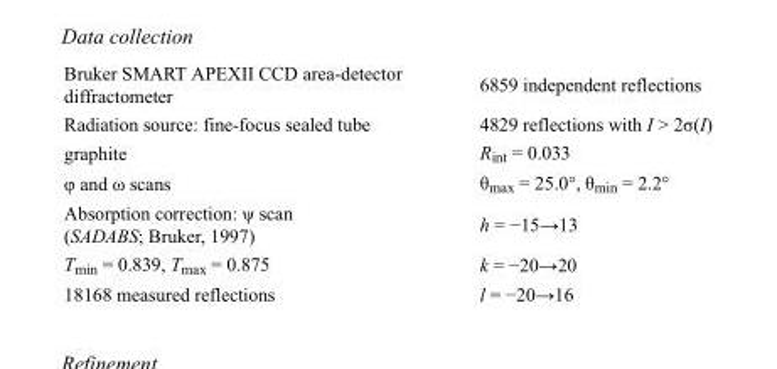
<table><tbody><tr><td>Bruker SMART APEXII CCD area-detector diffractometer</td><td>6859 independent reflections</td></tr><tr><td>Radiation source: fine-focus sealed tube</td><td>4829 reflections with I &gt; 2σ(I)</td></tr><tr><td>graphite</td><td>R<sub>int</sub> = 0.033</td></tr><tr><td>φ and ω scans</td><td>θ<sub>max</sub> = 25.0°, θ<sub>min</sub> = 2.2°</td></tr><tr><td>Absorption correction: ψ scan (SADABS; Bruker, 1997)</td><td>h = −15→13</td></tr><tr><td>T<sub>min</sub> = 0.839, T<sub>max</sub> = 0.875</td><td>k = −20→20</td></tr><tr><td>18168 measured reflections</td><td>l = −20→16</td></tr></tbody></table>